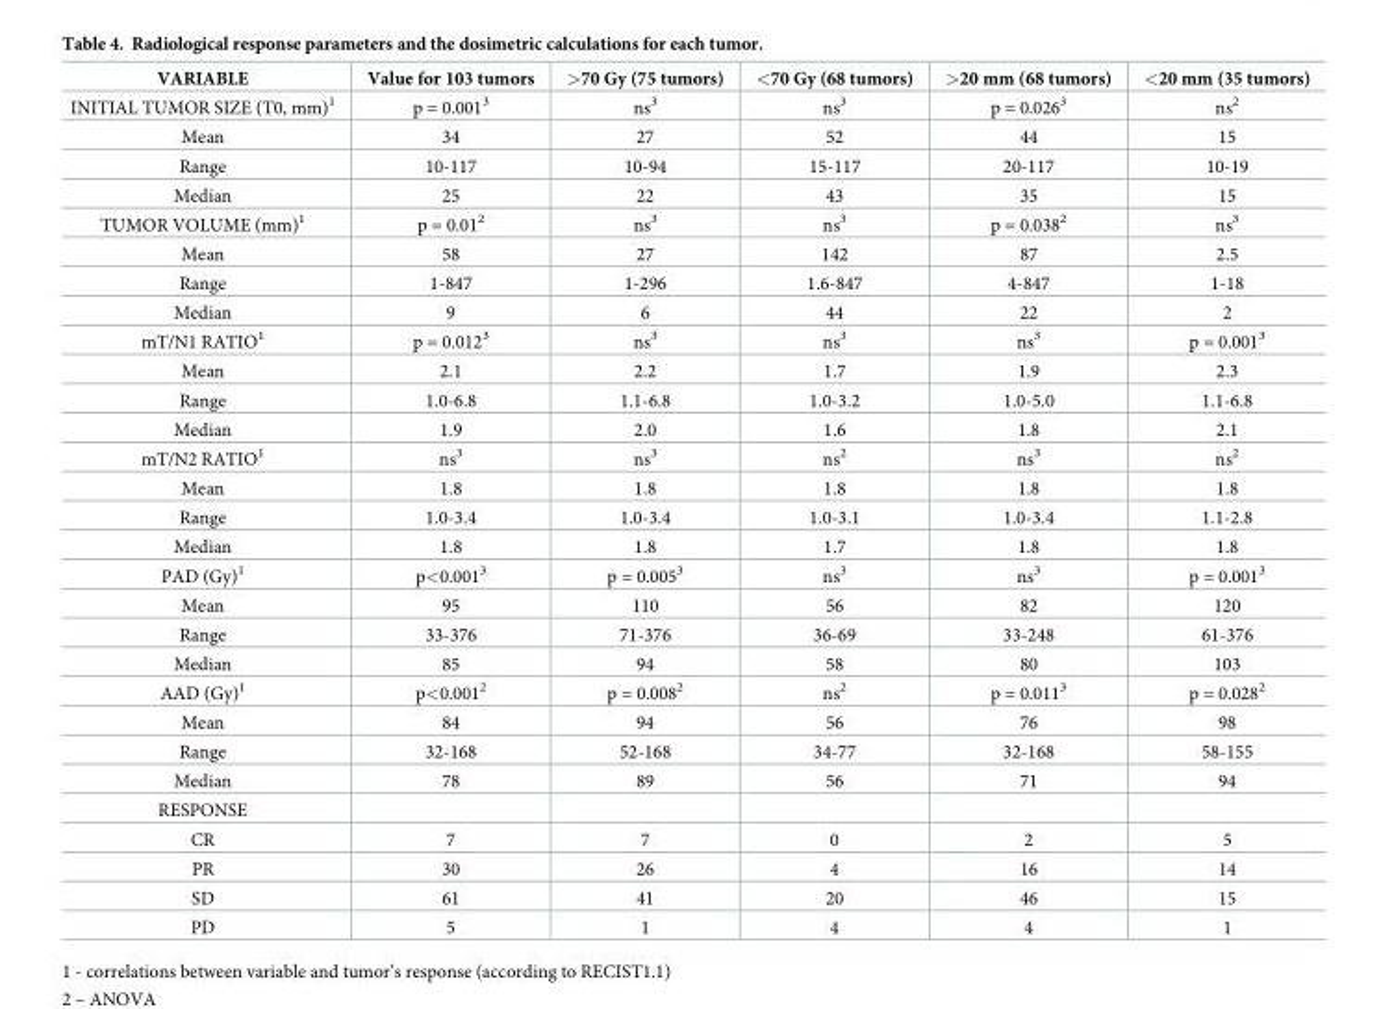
<table><thead><tr><td>VARIABLE</td><td>Value for 103 tumors</td><td>&gt;70 Gy (75 tumors)</td><td>&lt;70 Gy (68 tumors)</td><td>&gt;20 mm (68 tumors)</td><td>&lt;20 mm (35 tumors)</td></tr></thead><tbody><tr><td>INITIAL TUMOR SIZE (T0, mm)<sup>1</sup></td><td>p = 0.001<sup>3</sup></td><td>ns<sup>3</sup></td><td>ns<sup>3</sup></td><td>p = 0.026<sup>3</sup></td><td>ns<sup>2</sup></td></tr><tr><td>Mean</td><td>34</td><td>27</td><td>52</td><td>44</td><td>15</td></tr><tr><td>Range</td><td>10-117</td><td>10-94</td><td>15-117</td><td>20-117</td><td>10-19</td></tr><tr><td>Median</td><td>25</td><td>22</td><td>43</td><td>35</td><td>15</td></tr><tr><td>TUMOR VOLUME (mm)<sup>1</sup></td><td>p = 0.01<sup>2</sup></td><td>ns<sup>3</sup></td><td>ns<sup>3</sup></td><td>p = 0.038<sup>2</sup></td><td>ns<sup>3</sup></td></tr><tr><td>Mean</td><td>58</td><td>27</td><td>142</td><td>87</td><td>2.5</td></tr><tr><td>Range</td><td>1-847</td><td>1-296</td><td>1.6-847</td><td>4-847</td><td>1-18</td></tr><tr><td>Median</td><td>9</td><td>6</td><td>44</td><td>22</td><td>2</td></tr><tr><td>mT/N1 RATIO<sup>1</sup></td><td>p = 0.012<sup>3</sup></td><td>ns<sup>3</sup></td><td>ns<sup>3</sup></td><td>ns<sup>3</sup></td><td>p = 0.001<sup>3</sup></td></tr><tr><td>Mean</td><td>2.1</td><td>2.2</td><td>1.7</td><td>1.9</td><td>2.3</td></tr><tr><td>Range</td><td>1.0-6.8</td><td>1.1-6.8</td><td>1.0-3.2</td><td>1.0-5.0</td><td>1.1-6.8</td></tr><tr><td>Median</td><td>1.9</td><td>2.0</td><td>1.6</td><td>1.8</td><td>2.1</td></tr><tr><td>mT/N2 RATIO<sup>1</sup></td><td>ns<sup>3</sup></td><td>ns<sup>3</sup></td><td>ns<sup>2</sup></td><td>ns<sup>3</sup></td><td>ns<sup>2</sup></td></tr><tr><td>Mean</td><td>1.8</td><td>1.8</td><td>1.8</td><td>1.8</td><td>1.8</td></tr><tr><td>Range</td><td>1.0-3.4</td><td>1.0-3.4</td><td>1.0-3.1</td><td>1.0-3.4</td><td>1.1-2.8</td></tr><tr><td>Median</td><td>1.8</td><td>1.8</td><td>1.7</td><td>1.8</td><td>1.8</td></tr><tr><td>PAD (Gy)<sup>1</sup></td><td>p&lt;0.001<sup>3</sup></td><td>p = 0.005<sup>3</sup></td><td>ns<sup>3</sup></td><td>ns<sup>3</sup></td><td>p = 0.001<sup>3</sup></td></tr><tr><td>Mean</td><td>95</td><td>110</td><td>56</td><td>82</td><td>120</td></tr><tr><td>Range</td><td>33-376</td><td>71-376</td><td>36-69</td><td>33-248</td><td>61-376</td></tr><tr><td>Median</td><td>85</td><td>94</td><td>58</td><td>80</td><td>103</td></tr><tr><td>AAD (Gy)<sup>1</sup></td><td>p&lt;0.001<sup>2</sup></td><td>p = 0.008<sup>2</sup></td><td>ns<sup>2</sup></td><td>p = 0.011<sup>3</sup></td><td>p = 0.028<sup>2</sup></td></tr><tr><td>Mean</td><td>84</td><td>94</td><td>56</td><td>76</td><td>98</td></tr><tr><td>Range</td><td>32-168</td><td>52-168</td><td>34-77</td><td>32-168</td><td>58-155</td></tr><tr><td>Median</td><td>78</td><td>89</td><td>56</td><td>71</td><td>94</td></tr><tr><td colspan="6">RESPONSE</td></tr><tr><td>CR</td><td>7</td><td>7</td><td>0</td><td>2</td><td>5</td></tr><tr><td>PR</td><td>30</td><td>26</td><td>4</td><td>16</td><td>14</td></tr><tr><td>SD</td><td>61</td><td>41</td><td>20</td><td>46</td><td>15</td></tr><tr><td>PD</td><td>5</td><td>1</td><td>4</td><td>4</td><td>1</td></tr></tbody></table>